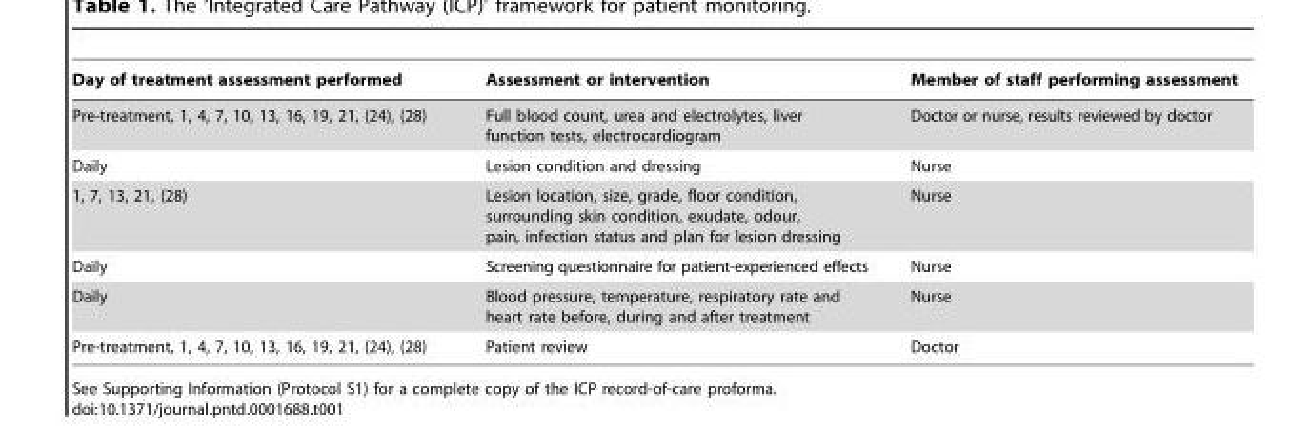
<table><thead><tr><td>Day of treatment assessment performed</td><td>Assessment or intervention</td><td>Member of staff performing assessment</td></tr></thead><tbody><tr><td>Pre-treatment, 1, 4, 7, 10, 13, 16, 19, 21, (24), (28)</td><td>Full blood count, urea and electrolytes, liver function tests, electrocardiogram</td><td>Doctor or nurse, results reviewed by doctor</td></tr><tr><td>Daily</td><td>Lesion condition and dressing</td><td>Nurse</td></tr><tr><td>1, 7, 13, 21, (28)</td><td>Lesion location, size, grade, floor condition, surrounding skin condition, exudate, odour, pain, infection status and plan for lesion dressing</td><td>Nurse</td></tr><tr><td>Daily</td><td>Screening questionnaire for patient-experienced effects</td><td>Nurse</td></tr><tr><td>Daily</td><td>Blood pressure, temperature, respiratory rate and heart rate before, during and after treatment</td><td>Nurse</td></tr><tr><td>Pre-treatment, 1, 4, 7, 10, 13, 16, 19, 21, (24), (28)</td><td>Patient review</td><td>Doctor</td></tr></tbody></table>